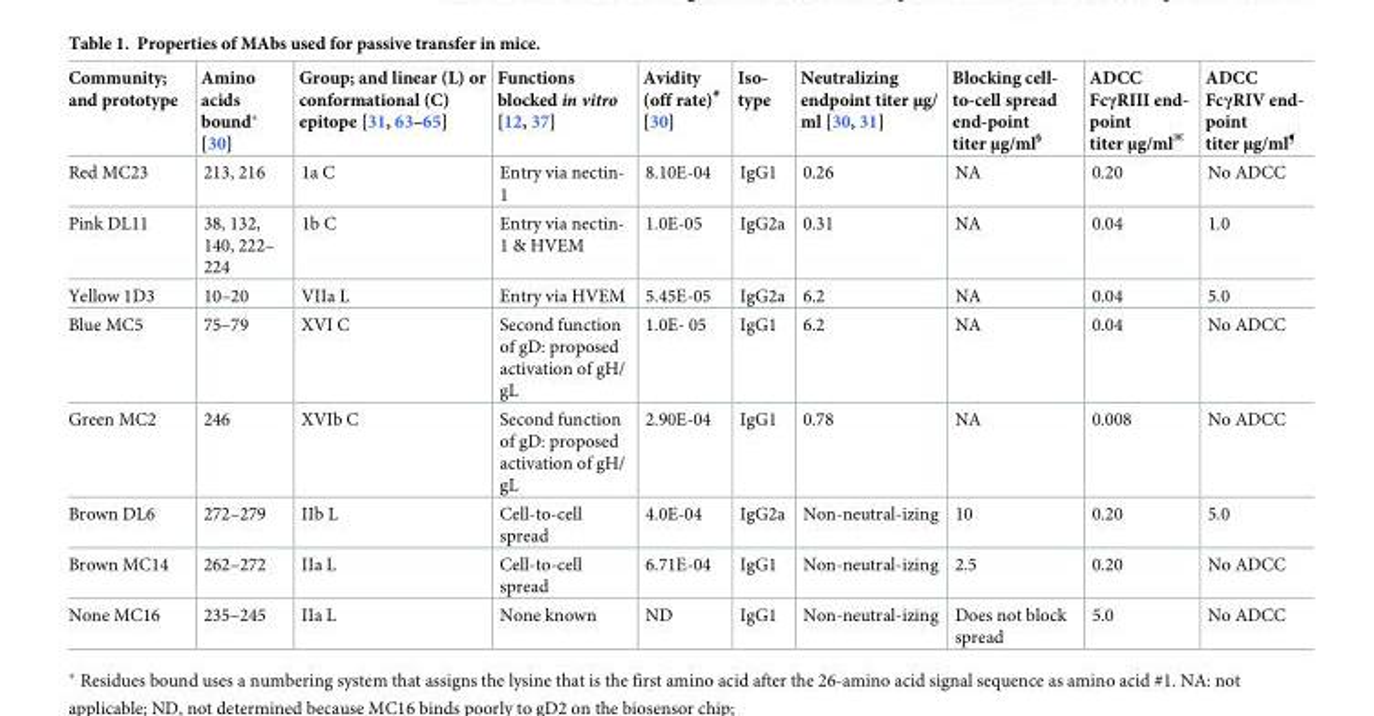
<table><thead><tr><td>Community; and prototype</td><td>Amino acids bound* [30]</td><td>Group; and linear (L) or conformational (C) epitope [31, 63–65]</td><td>Functions blocked in vitro [12, 37]</td><td>Avidity (off rate)<sup>#</sup> [30]</td><td>Iso- type</td><td>Neutralizing endpoint titer μg/ ml [30, 31]</td><td>Blocking cell- to-cell spread end-point titer μg/ml<sup>§</sup></td><td>ADCC FcγRIII end- point titer μg/ml<sup>⌘</sup></td><td>ADCC FcγRIV end- point titer μg/ml<sup>¶</sup></td></tr></thead><tbody><tr><td>Red MC23</td><td>213, 216</td><td>1a C</td><td>Entry via nectin- 1</td><td>8.10E-04</td><td>IgG1</td><td>0.26</td><td>NA</td><td>0.20</td><td>No ADCC</td></tr><tr><td>Pink DL11</td><td>38, 132, 140, 222– 224</td><td>1b C</td><td>Entry via nectin- 1 &amp; HVEM</td><td>1.0E-05</td><td>IgG2a</td><td>0.31</td><td>NA</td><td>0.04</td><td>1.0</td></tr><tr><td>Yellow 1D3</td><td>10–20</td><td>VIIa L</td><td>Entry via HVEM</td><td>5.45E-05</td><td>IgG2a</td><td>6.2</td><td>NA</td><td>0.04</td><td>5.0</td></tr><tr><td>Blue MC5</td><td>75–79</td><td>XVI C</td><td>Second function of gD: proposed activation of gH/ gL</td><td>1.0E- 05</td><td>IgG1</td><td>6.2</td><td>NA</td><td>0.04</td><td>No ADCC</td></tr><tr><td>Green MC2</td><td>246</td><td>XVIb C</td><td>Second function of gD: proposed activation of gH/ gL</td><td>2.90E-04</td><td>IgG1</td><td>0.78</td><td>NA</td><td>0.008</td><td>No ADCC</td></tr><tr><td>Brown DL6</td><td>272–279</td><td>IIb L</td><td>Cell-to-cell spread</td><td>4.0E-04</td><td>IgG2a</td><td>Non-neutral-izing</td><td>10</td><td>0.20</td><td>5.0</td></tr><tr><td>Brown MC14</td><td>262–272</td><td>IIa L</td><td>Cell-to-cell spread</td><td>6.71E-04</td><td>IgG1</td><td>Non-neutral-izing</td><td>2.5</td><td>0.20</td><td>No ADCC</td></tr><tr><td>None MC16</td><td>235–245</td><td>IIa L</td><td>None known</td><td>ND</td><td>IgG1</td><td>Non-neutral-izing</td><td>Does not block spread</td><td>5.0</td><td>No ADCC</td></tr></tbody></table>